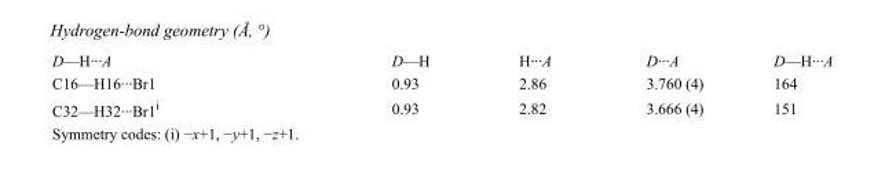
<table><tbody><tr><td>D—H···A</td><td>D—H</td><td>H···A</td><td>D···A</td><td>D—H···A</td></tr><tr><td>C16—H16···Br1</td><td>0.93</td><td>2.86</td><td>3.760 (4)</td><td>164</td></tr><tr><td>C32—H32···Br1<sup>i</sup></td><td>0.93</td><td>2.82</td><td>3.666 (4)</td><td>151</td></tr></tbody></table>